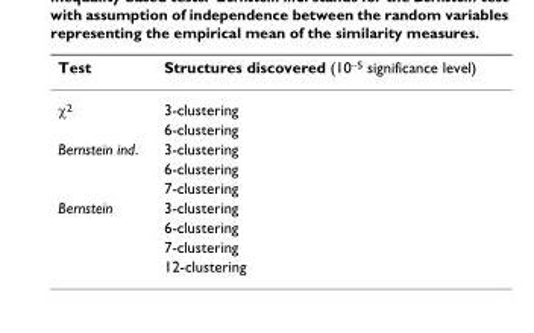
<table><thead><tr><td>Test</td><td>Structures discovered (10<sup>−5</sup> significance level)</td></tr></thead><tbody><tr><td rowspan="2">χ<sup>2</sup></td><td>3-clustering</td></tr><tr><td>6-clustering</td></tr><tr><td rowspan="3">Bernstein ind.</td><td>3-clustering</td></tr><tr><td>6-clustering</td></tr><tr><td>7-clustering</td></tr><tr><td rowspan="4">Bernstein</td><td>3-clustering</td></tr><tr><td>6-clustering</td></tr><tr><td>7-clustering</td></tr><tr><td>12-clustering</td></tr></tbody></table>